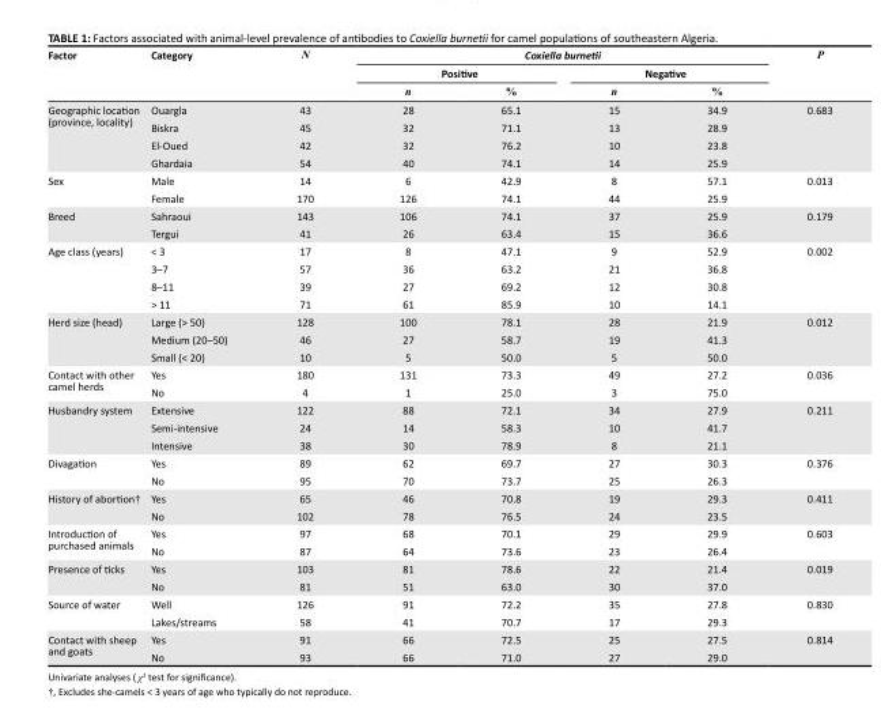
<table><thead><tr><td rowspan="3">Factor</td><td rowspan="3">Category</td><td rowspan="3">N</td><td colspan="4">Coxiella burnetii</td><td rowspan="3">P</td></tr><tr><td colspan="2">Positive</td><td colspan="2">Negative</td></tr><tr><td>n</td><td>%</td><td>n</td><td>%</td></tr></thead><tbody><tr><td rowspan="4">Geographic location (province, locality)</td><td>Ouargla</td><td>43</td><td>28</td><td>65.1</td><td>15</td><td>34.9</td><td rowspan="4">0.683</td></tr><tr><td>Biskra</td><td>45</td><td>32</td><td>71.1</td><td>13</td><td>28.9</td></tr><tr><td>El-Oued</td><td>42</td><td>32</td><td>76.2</td><td>10</td><td>23.8</td></tr><tr><td>Ghardaia</td><td>54</td><td>40</td><td>74.1</td><td>14</td><td>25.9</td></tr><tr><td rowspan="2">Sex</td><td>Male</td><td>14</td><td>6</td><td>42.9</td><td>8</td><td>57.1</td><td rowspan="2">0.013</td></tr><tr><td>Female</td><td>170</td><td>126</td><td>74.1</td><td>44</td><td>25.9</td></tr><tr><td rowspan="2">Breed</td><td>Sahraoui</td><td>143</td><td>106</td><td>74.1</td><td>37</td><td>25.9</td><td rowspan="2">0.179</td></tr><tr><td>Tergui</td><td>41</td><td>26</td><td>63.4</td><td>15</td><td>36.6</td></tr><tr><td rowspan="4">Age class (years)</td><td>&lt; 3</td><td>17</td><td>8</td><td>47.1</td><td>9</td><td>52.9</td><td rowspan="4">0.002</td></tr><tr><td>3–7</td><td>57</td><td>36</td><td>63.2</td><td>21</td><td>36.8</td></tr><tr><td>8–11</td><td>39</td><td>27</td><td>69.2</td><td>12</td><td>30.8</td></tr><tr><td>&gt; 11</td><td>71</td><td>61</td><td>85.9</td><td>10</td><td>14.1</td></tr><tr><td rowspan="3">Herd size (head)</td><td>Large (&gt; 50)</td><td>128</td><td>100</td><td>78.1</td><td>28</td><td>21.9</td><td rowspan="3">0.012</td></tr><tr><td>Medium (20–50)</td><td>46</td><td>27</td><td>58.7</td><td>19</td><td>41.3</td></tr><tr><td>Small (&lt; 20)</td><td>10</td><td>5</td><td>50.0</td><td>5</td><td>50.0</td></tr><tr><td rowspan="2">Contact with other camel herds</td><td>Yes</td><td>180</td><td>131</td><td>73.3</td><td>49</td><td>27.2</td><td rowspan="2">0.036</td></tr><tr><td>No</td><td>4</td><td>1</td><td>25.0</td><td>3</td><td>75.0</td></tr><tr><td rowspan="3">Husbandry system</td><td>Extensive</td><td>122</td><td>88</td><td>72.1</td><td>34</td><td>27.9</td><td rowspan="3">0.211</td></tr><tr><td>Semi-intensive</td><td>24</td><td>14</td><td>58.3</td><td>10</td><td>41.7</td></tr><tr><td>Intensive</td><td>38</td><td>30</td><td>78.9</td><td>8</td><td>21.1</td></tr><tr><td rowspan="2">Divagation</td><td>Yes</td><td>89</td><td>62</td><td>69.7</td><td>27</td><td>30.3</td><td rowspan="2">0.376</td></tr><tr><td>No</td><td>95</td><td>70</td><td>73.7</td><td>25</td><td>26.3</td></tr><tr><td rowspan="2">History of abortion†</td><td>Yes</td><td>65</td><td>46</td><td>70.8</td><td>19</td><td>29.3</td><td rowspan="2">0.411</td></tr><tr><td>No</td><td>102</td><td>78</td><td>76.5</td><td>24</td><td>23.5</td></tr><tr><td rowspan="2">Introduction of purchased animals</td><td>Yes</td><td>97</td><td>68</td><td>70.1</td><td>29</td><td>29.9</td><td rowspan="2">0.603</td></tr><tr><td>No</td><td>87</td><td>64</td><td>73.6</td><td>23</td><td>26.4</td></tr><tr><td rowspan="2">Presence of ticks</td><td>Yes</td><td>103</td><td>81</td><td>78.6</td><td>22</td><td>21.4</td><td rowspan="2">0.019</td></tr><tr><td>No</td><td>81</td><td>51</td><td>63.0</td><td>30</td><td>37.0</td></tr><tr><td rowspan="2">Source of water</td><td>Well</td><td>126</td><td>91</td><td>72.2</td><td>35</td><td>27.8</td><td rowspan="2">0.830</td></tr><tr><td>Lakes/streams</td><td>58</td><td>41</td><td>70.7</td><td>17</td><td>29.3</td></tr><tr><td rowspan="2">Contact with sheep and goats</td><td>Yes</td><td>91</td><td>66</td><td>72.5</td><td>25</td><td>27.5</td><td rowspan="2">0.814</td></tr><tr><td>No</td><td>93</td><td>66</td><td>71.0</td><td>27</td><td>29.0</td></tr></tbody></table>